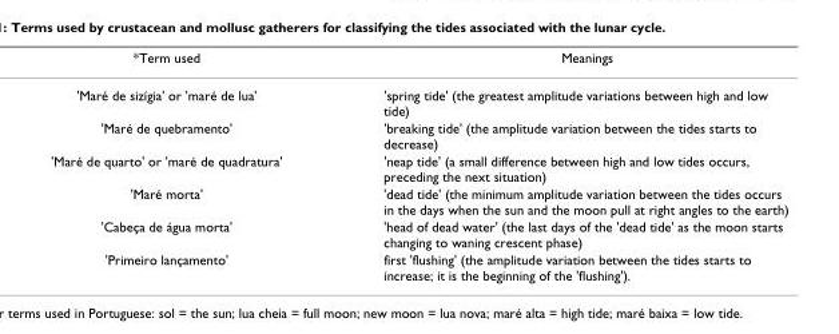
<table><thead><tr><td>*Term used</td><td>Meanings</td></tr></thead><tbody><tr><td>&#x27;Maré de sizígia&#x27; or &#x27;maré de lua&#x27;</td><td>&#x27;spring tide&#x27; (the greatest amplitude variations between high and low tide)</td></tr><tr><td>&#x27;Maré de quebramento&#x27;</td><td>&#x27;breaking tide&#x27; (the amplitude variation between the tides starts to decrease)</td></tr><tr><td>&#x27;Maré de quarto&#x27; or &#x27;maré de quadratura&#x27;</td><td>&#x27;neap tide&#x27; (a small difference between high and low tides occurs, preceding the next situation)</td></tr><tr><td>&#x27;Maré morta&#x27;</td><td>&#x27;dead tide&#x27; (the minimum amplitude variation between the tides occurs in the days when the sun and the moon pull at right angles to the earth)</td></tr><tr><td>&#x27;Cabeça de água morta&#x27;</td><td>&#x27;head of dead water&#x27; (the last days of the &#x27;dead tide&#x27; as the moon starts changing to waning crescent phase)</td></tr><tr><td>&#x27;Primeiro lançamento&#x27;</td><td>first &#x27;flushing&#x27; (the amplitude variation between the tides starts to increase; it is the beginning of the &#x27;flushing&#x27;).</td></tr></tbody></table>